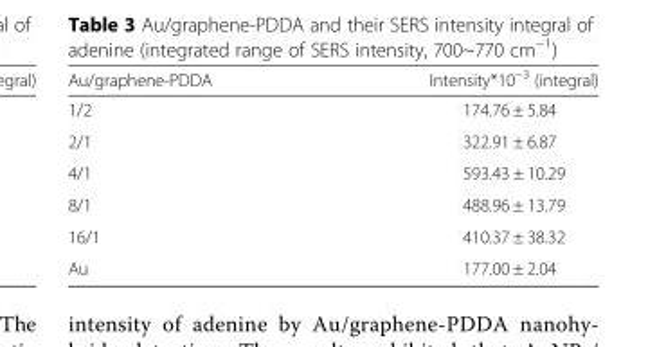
<table><thead><tr><td>Au/graphene-PDDA</td><td>Intensity*10<sup>−3</sup> (integral)</td></tr></thead><tbody><tr><td>1/2</td><td>174.76 ± 5.84</td></tr><tr><td>2/1</td><td>322.91 ± 6.87</td></tr><tr><td>4/1</td><td>593.43 ± 10.29</td></tr><tr><td>8/1</td><td>488.96 ± 13.79</td></tr><tr><td>16/1</td><td>410.37 ± 38.32</td></tr><tr><td>Au</td><td>177.00 ± 2.04</td></tr></tbody></table>